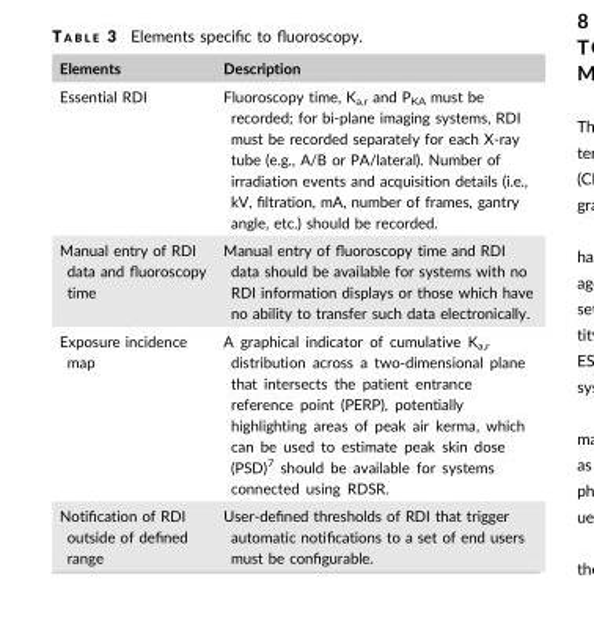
<table><thead><tr><td>Elements</td><td>Description</td></tr></thead><tbody><tr><td>Essential RDI</td><td>Fluoroscopy time, K<sub>a,r</sub> and P<sub>KA</sub> must be recorded; for bi-plane imaging systems, RDI must be recorded separately for each X-ray tube (e.g., A/B or PA/lateral). Number of irradiation events and acquisition details (i.e., kV, filtration, mA, number of frames, gantry angle, etc.) should be recorded.</td></tr><tr><td>Manual entry of RDI data and fluoroscopy time</td><td>Manual entry of fluoroscopy time and RDI data should be available for systems with no RDI information displays or those which have no ability to transfer such data electronically.</td></tr><tr><td>Exposure incidence map</td><td>A graphical indicator of cumulative K<sub>a,r</sub> distribution across a two-dimensional plane that intersects the patient entrance reference point (PERP), potentially highlighting areas of peak air kerma, which can be used to estimate peak skin dose (PSD)<sup>7</sup> should be available for systems connected using RDSR.</td></tr><tr><td>Notification of RDI outside of defined range</td><td>User-defined thresholds of RDI that trigger automatic notifications to a set of end users must be configurable.</td></tr></tbody></table>